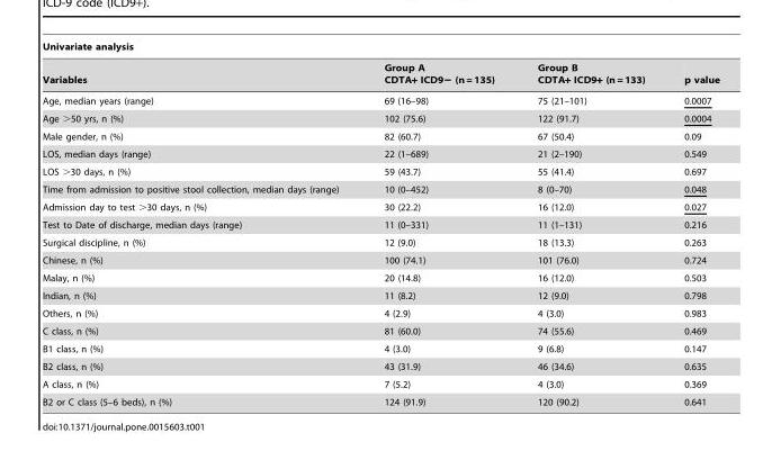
<table><thead><tr><td colspan="4">Univariate analysis</td></tr><tr><td>Variables</td><td>Group A CDTA+ ICD9− (n = 135)</td><td>Group B CDTA+ ICD9+ (n = 133)</td><td>p value</td></tr></thead><tbody><tr><td>Age, median years (range)</td><td>69 (16–98)</td><td>75 (21–101)</td><td>0.0007</td></tr><tr><td>Age &gt;50 yrs, n (%)</td><td>102 (75.6)</td><td>122 (91.7)</td><td>0.0004</td></tr><tr><td>Male gender, n (%)</td><td>82 (60.7)</td><td>67 (50.4)</td><td>0.09</td></tr><tr><td>LOS, median days (range)</td><td>22 (1–689)</td><td>21 (2–190)</td><td>0.549</td></tr><tr><td>LOS &gt;30 days, n (%)</td><td>59 (43.7)</td><td>55 (41.4)</td><td>0.697</td></tr><tr><td>Time from admission to positive stool collection, median days (range)</td><td>10 (0–452)</td><td>8 (0–70)</td><td>0.048</td></tr><tr><td>Admission day to test &gt;30 days, n (%)</td><td>30 (22.2)</td><td>16 (12.0)</td><td>0.027</td></tr><tr><td>Test to Date of discharge, median days (range)</td><td>11 (0–331)</td><td>11 (1–131)</td><td>0.216</td></tr><tr><td>Surgical discipline, n (%)</td><td>12 (9.0)</td><td>18 (13.3)</td><td>0.263</td></tr><tr><td>Chinese, n (%)</td><td>100 (74.1)</td><td>101 (76.0)</td><td>0.724</td></tr><tr><td>Malay, n (%)</td><td>20 (14.8)</td><td>16 (12.0)</td><td>0.503</td></tr><tr><td>Indian, n (%)</td><td>11 (8.2)</td><td>12 (9.0)</td><td>0.798</td></tr><tr><td>Others, n (%)</td><td>4 (2.9)</td><td>4 (3.0)</td><td>0.983</td></tr><tr><td>C class, n (%)</td><td>81 (60.0)</td><td>74 (55.6)</td><td>0.469</td></tr><tr><td>B1 class, n (%)</td><td>4 (3.0)</td><td>9 (6.8)</td><td>0.147</td></tr><tr><td>B2 class, n (%)</td><td>43 (31.9)</td><td>46 (34.6)</td><td>0.635</td></tr><tr><td>A class, n (%)</td><td>7 (5.2)</td><td>4 (3.0)</td><td>0.369</td></tr><tr><td>B2 or C class (5–6 beds), n (%)</td><td>124 (91.9)</td><td>120 (90.2)</td><td>0.641</td></tr></tbody></table>